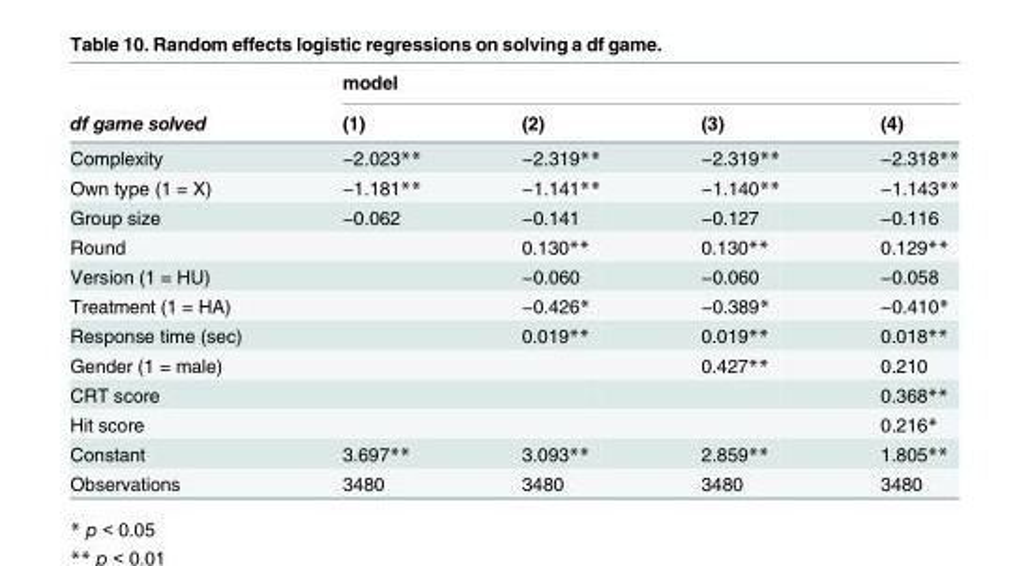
<table><thead><tr><td rowspan="2">df game solved</td><td colspan="4">model</td></tr><tr><td>(1)</td><td>(2)</td><td>(3)</td><td>(4)</td></tr></thead><tbody><tr><td>Complexity</td><td>−2.023**</td><td>−2.319**</td><td>−2.319**</td><td>−2.318**</td></tr><tr><td>Own type (1 = X)</td><td>−1.181**</td><td>−1.141**</td><td>−1.140**</td><td>−1.143**</td></tr><tr><td>Group size</td><td>−0.062</td><td>−0.141</td><td>−0.127</td><td>−0.116</td></tr><tr><td>Round</td><td></td><td>0.130**</td><td>0.130**</td><td>0.129**</td></tr><tr><td>Version (1 = HU)</td><td></td><td>−0.060</td><td>−0.060</td><td>−0.058</td></tr><tr><td>Treatment (1 = HA)</td><td></td><td>−0.426*</td><td>−0.389*</td><td>−0.410*</td></tr><tr><td>Response time (sec)</td><td></td><td>0.019**</td><td>0.019**</td><td>0.018**</td></tr><tr><td>Gender (1 = male)</td><td></td><td></td><td>0.427**</td><td>0.210</td></tr><tr><td>CRT score</td><td></td><td></td><td></td><td>0.368**</td></tr><tr><td>Hit score</td><td></td><td></td><td></td><td>0.216*</td></tr><tr><td>Constant</td><td>3.697**</td><td>3.093**</td><td>2.859**</td><td>1.805**</td></tr><tr><td>Observations</td><td>3480</td><td>3480</td><td>3480</td><td>3480</td></tr></tbody></table>